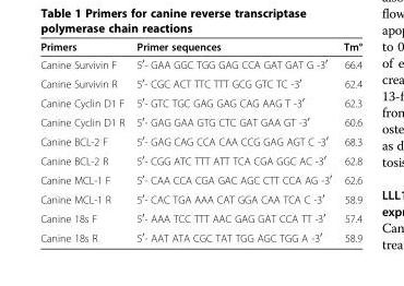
<table><thead><tr><td>Primers</td><td>Primer sequences</td><td>Tm°</td></tr></thead><tbody><tr><td>Canine Survivin F</td><td>5<sup>′</sup>- GAA GGC TGG GAG CCA GAT GAT G -3<sup>′</sup></td><td>66.4</td></tr><tr><td>Canine Survivin R</td><td>5<sup>′</sup>- CGC ACT TTC TTT GCG GTC TC -3<sup>′</sup></td><td>62.4</td></tr><tr><td>Canine Cyclin D1 F</td><td>5<sup>′</sup>- GTC TGC GAG GAG CAG AAG T -3<sup>′</sup></td><td>62.3</td></tr><tr><td>Canine Cyclin D1 R</td><td>5<sup>′</sup>- GAG GAA GTG CTC GAT GAA GT -3<sup>′</sup></td><td>60.6</td></tr><tr><td>Canine BCL-2 F</td><td>5<sup>′</sup>- GAG CAG CCA CAA CCG GAG AGT C -3<sup>′</sup></td><td>68.3</td></tr><tr><td>Canine BCL-2 R</td><td>5<sup>′</sup>- CGG ATC TTT ATT TCA CGA GGC AC -3<sup>′</sup></td><td>62.8</td></tr><tr><td>Canine MCL-1 F</td><td>5<sup>′</sup>- CAA CCA CGA GAC AGC CTT CCA AG -3<sup>′</sup></td><td>62.6</td></tr><tr><td>Canine MCL-1 R</td><td>5<sup>′</sup>- CAC TGA AAA CAT GGA CAA TCA C -3<sup>′</sup></td><td>58.9</td></tr><tr><td>Canine 18s F</td><td>5<sup>′</sup>- AAA TCC TTT AAC GAG GAT CCA TT -3<sup>′</sup></td><td>57.4</td></tr><tr><td>Canine 18s R</td><td>5<sup>′</sup>- AAT ATA CGC TAT TGG AGC TGG A -3<sup>′</sup></td><td>58.9</td></tr></tbody></table>